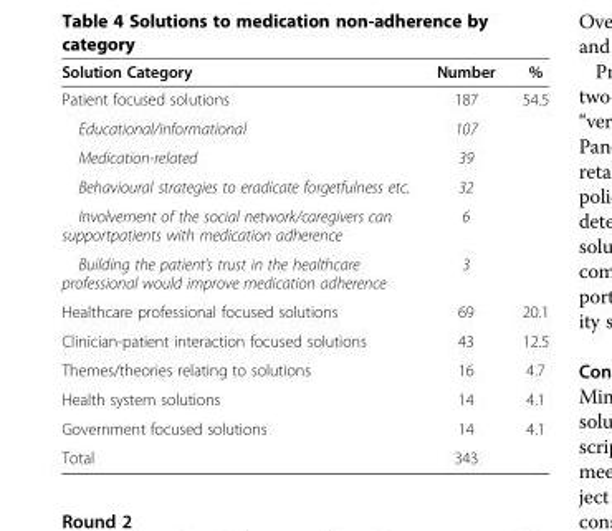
<table><thead><tr><td>Solution Category</td><td>Number</td><td>%</td></tr></thead><tbody><tr><td>Patient focused solutions</td><td>187</td><td>54.5</td></tr><tr><td>Educational/informational</td><td>107</td><td></td></tr><tr><td>Medication-related</td><td>39</td><td></td></tr><tr><td>Behavioural strategies to eradicate forgetfulness etc.</td><td>32</td><td></td></tr><tr><td>Involvement of the social network/caregivers can supportpatients with medication adherence</td><td>6</td><td></td></tr><tr><td>Building the patient’s trust in the healthcare professional would improve medication adherence</td><td>3</td><td></td></tr><tr><td>Healthcare professional focused solutions</td><td>69</td><td>20.1</td></tr><tr><td>Clinician-patient interaction focused solutions</td><td>43</td><td>12.5</td></tr><tr><td>Themes/theories relating to solutions</td><td>16</td><td>4.7</td></tr><tr><td>Health system solutions</td><td>14</td><td>4.1</td></tr><tr><td>Government focused solutions</td><td>14</td><td>4.1</td></tr><tr><td>Total</td><td>343</td><td></td></tr></tbody></table>